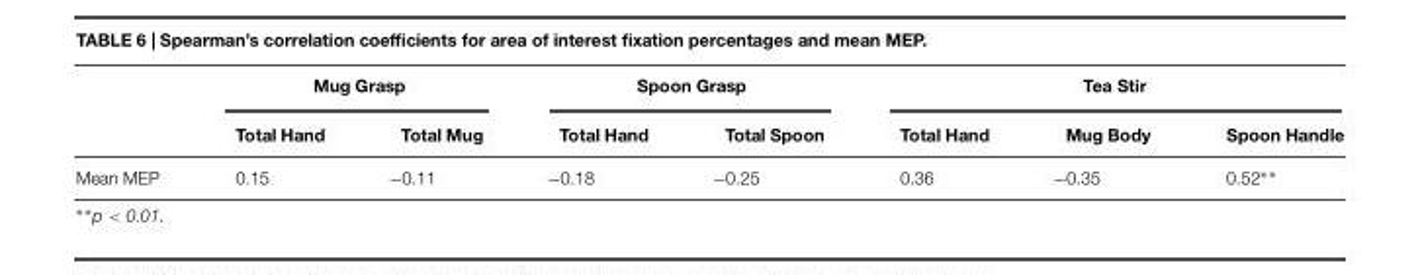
<table><thead><tr><td rowspan="2"></td><td colspan="2">Mug Grasp</td><td colspan="2">Spoon Grasp</td><td colspan="3">Tea Stir</td></tr><tr><td>Total Hand</td><td>Total Mug</td><td>Total Hand</td><td>Total Spoon</td><td>Total Hand</td><td>Mug Body</td><td>Spoon Handle</td></tr></thead><tbody><tr><td>Mean MEP</td><td>0.15</td><td>−0.11</td><td>−0.18</td><td>−0.25</td><td>0.36</td><td>−0.35</td><td>0.52∗∗</td></tr></tbody></table>